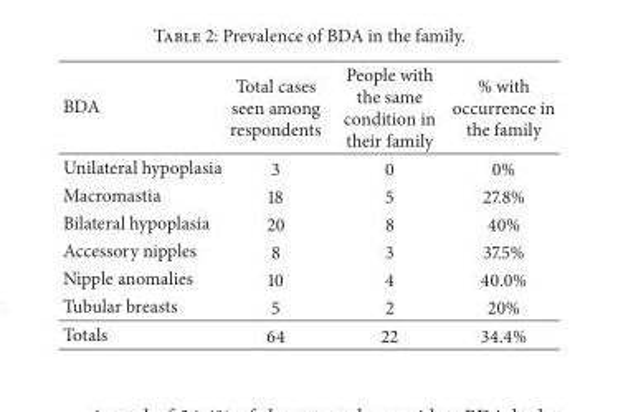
<table><thead><tr><td>BDA</td><td>Total cases seen among respondents</td><td>People with the same condition in their family</td><td>% with occurrence in the family</td></tr></thead><tbody><tr><td>Unilateral hypoplasia</td><td>3</td><td>0</td><td>0%</td></tr><tr><td>Macromastia</td><td>18</td><td>5</td><td>27.8%</td></tr><tr><td>Bilateral hypoplasia</td><td>20</td><td>8</td><td>40%</td></tr><tr><td>Accessory nipples</td><td>8</td><td>3</td><td>37.5%</td></tr><tr><td>Nipple anomalies</td><td>10</td><td>4</td><td>40.0%</td></tr><tr><td>Tubular breasts</td><td>5</td><td>2</td><td>20%</td></tr><tr><td>Totals</td><td>64</td><td>22</td><td>34.4%</td></tr></tbody></table>